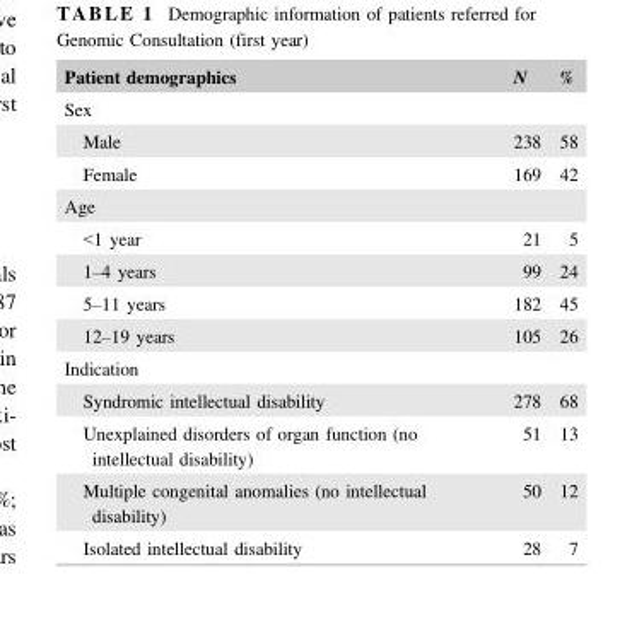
<table><thead><tr><td>Patient demographics</td><td>N</td><td>%</td></tr></thead><tbody><tr><td colspan="3">Sex</td></tr><tr><td>Male</td><td>238</td><td>58</td></tr><tr><td>Female</td><td>169</td><td>42</td></tr><tr><td colspan="3">Age</td></tr><tr><td>&lt;1 year</td><td>21</td><td>5</td></tr><tr><td>1–4 years</td><td>99</td><td>24</td></tr><tr><td>5–11 years</td><td>182</td><td>45</td></tr><tr><td>12–19 years</td><td>105</td><td>26</td></tr><tr><td colspan="3">Indication</td></tr><tr><td>Syndromic intellectual disability</td><td>278</td><td>68</td></tr><tr><td>Unexplained disorders of organ function (no intellectual disability)</td><td>51</td><td>13</td></tr><tr><td>Multiple congenital anomalies (no intellectual disability)</td><td>50</td><td>12</td></tr><tr><td>Isolated intellectual disability</td><td>28</td><td>7</td></tr></tbody></table>